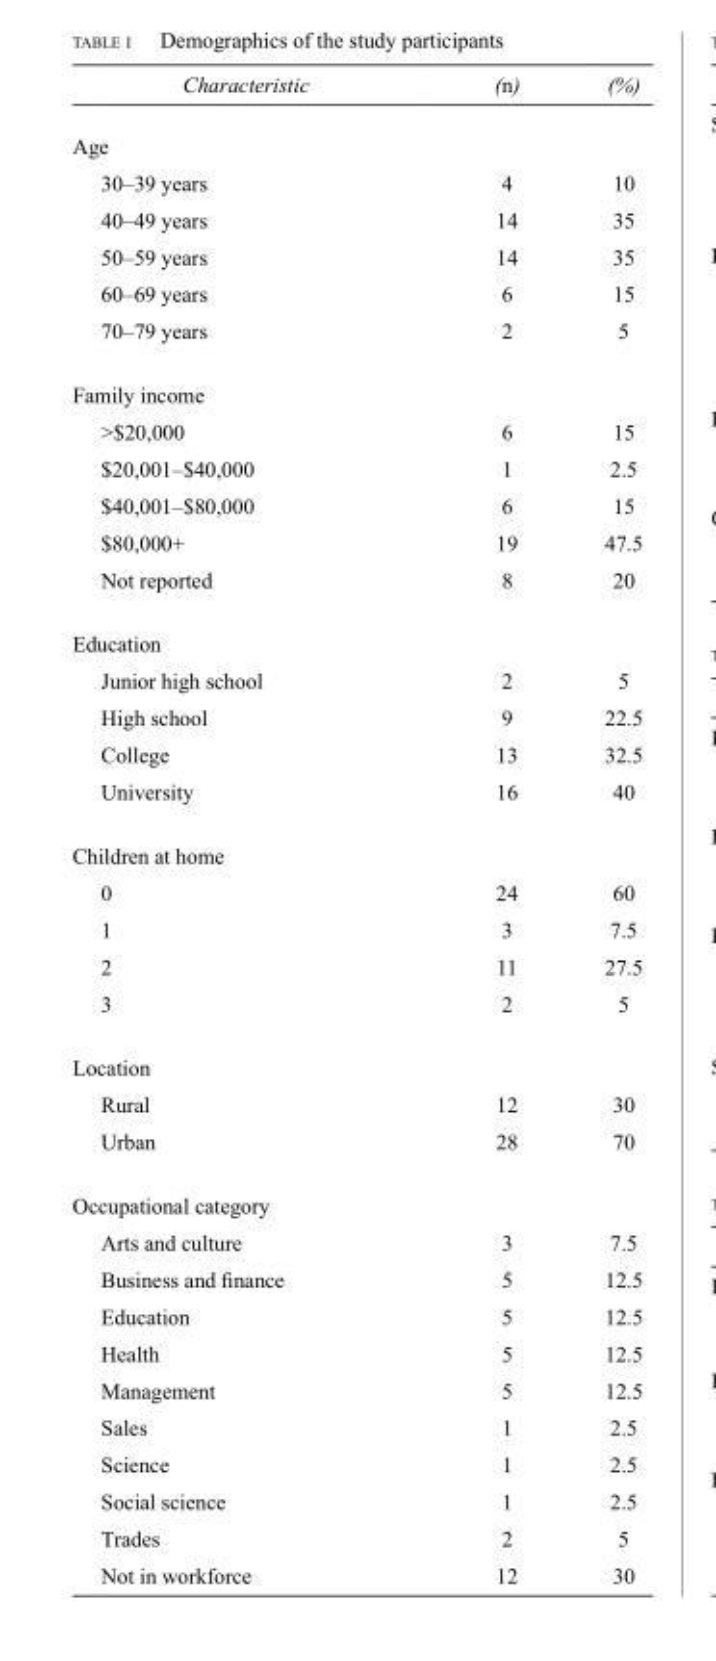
<table><thead><tr><td>Characteristic</td><td>(n)</td><td>(%)</td></tr></thead><tbody><tr><td colspan="3">Age</td></tr><tr><td>30–39 years</td><td>4</td><td>10</td></tr><tr><td>40–49 years</td><td>14</td><td>35</td></tr><tr><td>50–59 years</td><td>14</td><td>35</td></tr><tr><td>60–69 years</td><td>6</td><td>15</td></tr><tr><td>70–79 years</td><td>2</td><td>5</td></tr><tr><td colspan="3">Family income</td></tr><tr><td>&gt;$20,000</td><td>6</td><td>15</td></tr><tr><td>$20,001–$40,000</td><td>1</td><td>2.5</td></tr><tr><td>$40,001–$80,000</td><td>6</td><td>15</td></tr><tr><td>$80,000+</td><td>19</td><td>47.5</td></tr><tr><td>Not reported</td><td>8</td><td>20</td></tr><tr><td colspan="3">Education</td></tr><tr><td>Junior high school</td><td>2</td><td>5</td></tr><tr><td>High school</td><td>9</td><td>22.5</td></tr><tr><td>College</td><td>13</td><td>32.5</td></tr><tr><td>University</td><td>16</td><td>40</td></tr><tr><td colspan="3">Children at home</td></tr><tr><td>0</td><td>24</td><td>60</td></tr><tr><td>1</td><td>3</td><td>7.5</td></tr><tr><td>2</td><td>11</td><td>27.5</td></tr><tr><td>3</td><td>2</td><td>5</td></tr><tr><td colspan="3">Location</td></tr><tr><td>Rural</td><td>12</td><td>30</td></tr><tr><td>Urban</td><td>28</td><td>70</td></tr><tr><td colspan="3">Occupational category</td></tr><tr><td>Arts and culture</td><td>3</td><td>7.5</td></tr><tr><td>Business and finance</td><td>5</td><td>12.5</td></tr><tr><td>Education</td><td>5</td><td>12.5</td></tr><tr><td>Health</td><td>5</td><td>12.5</td></tr><tr><td>Management</td><td>5</td><td>12.5</td></tr><tr><td>Sales</td><td>1</td><td>2.5</td></tr><tr><td>Science</td><td>1</td><td>2.5</td></tr><tr><td>Social science</td><td>1</td><td>2.5</td></tr><tr><td>Trades</td><td>2</td><td>5</td></tr><tr><td>Not in workforce</td><td>12</td><td>30</td></tr></tbody></table>